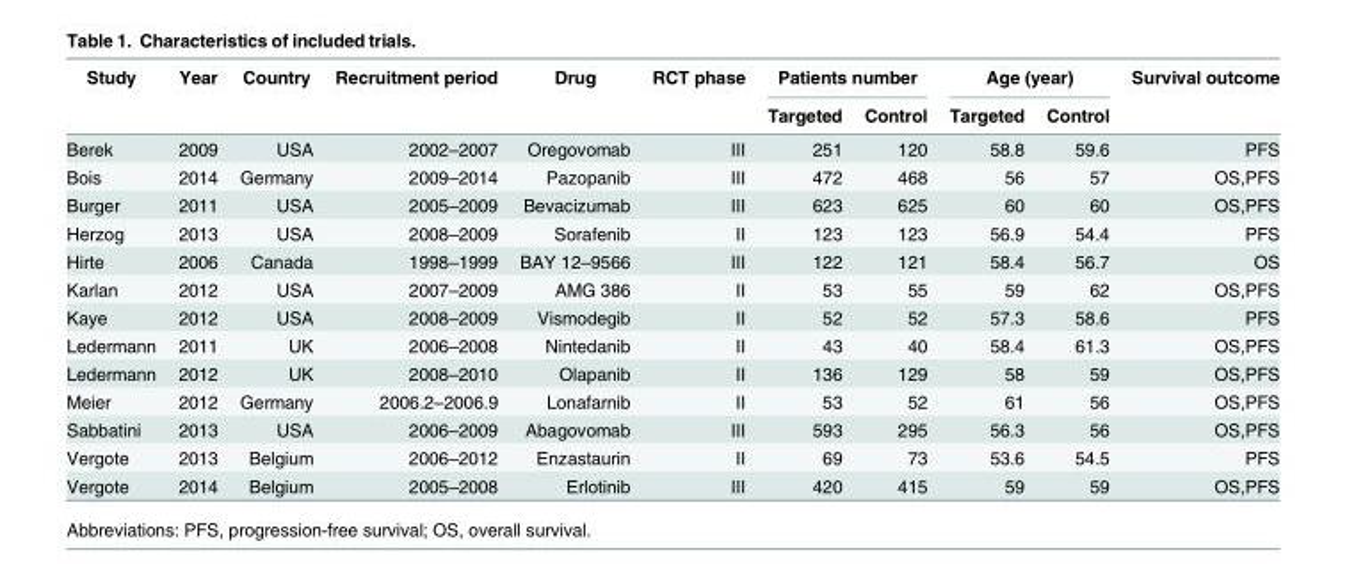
<table><thead><tr><td rowspan="2">Study</td><td rowspan="2">Year</td><td rowspan="2">Country</td><td rowspan="2">Recruitment period</td><td rowspan="2">Drug</td><td rowspan="2">RCT phase</td><td colspan="2">Patients number</td><td colspan="2">Age (year)</td><td rowspan="2">Survival outcome</td></tr><tr><td>Targeted</td><td>Control</td><td>Targeted</td><td>Control</td></tr></thead><tbody><tr><td>Berek</td><td>2009</td><td>USA</td><td>2002–2007</td><td>Oregovomab</td><td>III</td><td>251</td><td>120</td><td>58.8</td><td>59.6</td><td>PFS</td></tr><tr><td>Bois</td><td>2014</td><td>Germany</td><td>2009–2014</td><td>Pazopanib</td><td>III</td><td>472</td><td>468</td><td>56</td><td>57</td><td>OS,PFS</td></tr><tr><td>Burger</td><td>2011</td><td>USA</td><td>2005–2009</td><td>Bevacizumab</td><td>III</td><td>623</td><td>625</td><td>60</td><td>60</td><td>OS,PFS</td></tr><tr><td>Herzog</td><td>2013</td><td>USA</td><td>2008–2009</td><td>Sorafenib</td><td>II</td><td>123</td><td>123</td><td>56.9</td><td>54.4</td><td>PFS</td></tr><tr><td>Hirte</td><td>2006</td><td>Canada</td><td>1998–1999</td><td>BAY 12–9566</td><td>III</td><td>122</td><td>121</td><td>58.4</td><td>56.7</td><td>OS</td></tr><tr><td>Karlan</td><td>2012</td><td>USA</td><td>2007–2009</td><td>AMG 386</td><td>II</td><td>53</td><td>55</td><td>59</td><td>62</td><td>OS,PFS</td></tr><tr><td>Kaye</td><td>2012</td><td>USA</td><td>2008–2009</td><td>Vismodegib</td><td>II</td><td>52</td><td>52</td><td>57.3</td><td>58.6</td><td>PFS</td></tr><tr><td>Ledermann</td><td>2011</td><td>UK</td><td>2006–2008</td><td>Nintedanib</td><td>II</td><td>43</td><td>40</td><td>58.4</td><td>61.3</td><td>OS,PFS</td></tr><tr><td>Ledermann</td><td>2012</td><td>UK</td><td>2008–2010</td><td>Olapanib</td><td>II</td><td>136</td><td>129</td><td>58</td><td>59</td><td>OS,PFS</td></tr><tr><td>Meier</td><td>2012</td><td>Germany</td><td>2006.2–2006.9</td><td>Lonafarnib</td><td>II</td><td>53</td><td>52</td><td>61</td><td>56</td><td>OS,PFS</td></tr><tr><td>Sabbatini</td><td>2013</td><td>USA</td><td>2006–2009</td><td>Abagovomab</td><td>III</td><td>593</td><td>295</td><td>56.3</td><td>56</td><td>OS,PFS</td></tr><tr><td>Vergote</td><td>2013</td><td>Belgium</td><td>2006–2012</td><td>Enzastaurin</td><td>II</td><td>69</td><td>73</td><td>53.6</td><td>54.5</td><td>PFS</td></tr><tr><td>Vergote</td><td>2014</td><td>Belgium</td><td>2005–2008</td><td>Erlotinib</td><td>III</td><td>420</td><td>415</td><td>59</td><td>59</td><td>OS,PFS</td></tr></tbody></table>